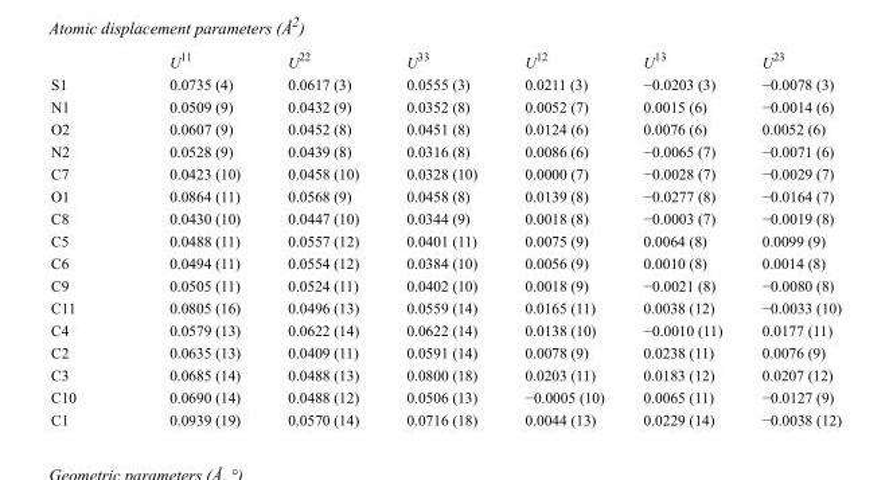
<table><thead><tr><td></td><td>U<sup>11</sup></td><td>U<sup>22</sup></td><td>U<sup>33</sup></td><td>U<sup>12</sup></td><td>U<sup>13</sup></td><td>U<sup>23</sup></td></tr></thead><tbody><tr><td>S1</td><td>0.0735 (4)</td><td>0.0617 (3)</td><td>0.0555 (3)</td><td>0.0211 (3)</td><td>−0.0203 (3)</td><td>−0.0078 (3)</td></tr><tr><td>N1</td><td>0.0509 (9)</td><td>0.0432 (9)</td><td>0.0352 (8)</td><td>0.0052 (7)</td><td>0.0015 (6)</td><td>−0.0014 (6)</td></tr><tr><td>O2</td><td>0.0607 (9)</td><td>0.0452 (8)</td><td>0.0451 (8)</td><td>0.0124 (6)</td><td>0.0076 (6)</td><td>0.0052 (6)</td></tr><tr><td>N2</td><td>0.0528 (9)</td><td>0.0439 (8)</td><td>0.0316 (8)</td><td>0.0086 (6)</td><td>−0.0065 (7)</td><td>−0.0071 (6)</td></tr><tr><td>C7</td><td>0.0423 (10)</td><td>0.0458 (10)</td><td>0.0328 (10)</td><td>0.0000 (7)</td><td>−0.0028 (7)</td><td>−0.0029 (7)</td></tr><tr><td>O1</td><td>0.0864 (11)</td><td>0.0568 (9)</td><td>0.0458 (8)</td><td>0.0139 (8)</td><td>−0.0277 (8)</td><td>−0.0164 (7)</td></tr><tr><td>C8</td><td>0.0430 (10)</td><td>0.0447 (10)</td><td>0.0344 (9)</td><td>0.0018 (8)</td><td>−0.0003 (7)</td><td>−0.0019 (8)</td></tr><tr><td>C5</td><td>0.0488 (11)</td><td>0.0557 (12)</td><td>0.0401 (11)</td><td>0.0075 (9)</td><td>0.0064 (8)</td><td>0.0099 (9)</td></tr><tr><td>C6</td><td>0.0494 (11)</td><td>0.0554 (12)</td><td>0.0384 (10)</td><td>0.0056 (9)</td><td>0.0010 (8)</td><td>0.0014 (8)</td></tr><tr><td>C9</td><td>0.0505 (11)</td><td>0.0524 (11)</td><td>0.0402 (10)</td><td>0.0018 (9)</td><td>−0.0021 (8)</td><td>−0.0080 (8)</td></tr><tr><td>C11</td><td>0.0805 (16)</td><td>0.0496 (13)</td><td>0.0559 (14)</td><td>0.0165 (11)</td><td>0.0038 (12)</td><td>−0.0033 (10)</td></tr><tr><td>C4</td><td>0.0579 (13)</td><td>0.0622 (14)</td><td>0.0622 (14)</td><td>0.0138 (10)</td><td>−0.0010 (11)</td><td>0.0177 (11)</td></tr><tr><td>C2</td><td>0.0635 (13)</td><td>0.0409 (11)</td><td>0.0591 (14)</td><td>0.0078 (9)</td><td>0.0238 (11)</td><td>0.0076 (9)</td></tr><tr><td>C3</td><td>0.0685 (14)</td><td>0.0488 (13)</td><td>0.0800 (18)</td><td>0.0203 (11)</td><td>0.0183 (12)</td><td>0.0207 (12)</td></tr><tr><td>C10</td><td>0.0690 (14)</td><td>0.0488 (12)</td><td>0.0506 (13)</td><td>−0.0005 (10)</td><td>0.0065 (11)</td><td>−0.0127 (9)</td></tr><tr><td>C1</td><td>0.0939 (19)</td><td>0.0570 (14)</td><td>0.0716 (18)</td><td>0.0044 (13)</td><td>0.0229 (14)</td><td>−0.0038 (12)</td></tr></tbody></table>